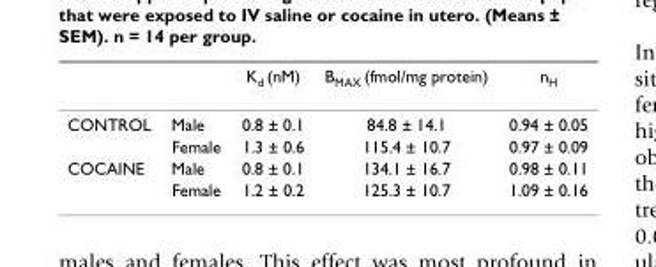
<table><thead><tr><td></td><td></td><td>Kd (nM)</td><td>BMAX (fmol/mg protein)</td><td>nH</td></tr></thead><tbody><tr><td rowspan="2">CONTROL</td><td>Male</td><td>0.8 ± 0.1</td><td>84.8 ± 14.1</td><td>0.94 ± 0.05</td></tr><tr><td>Female</td><td>1.3 ± 0.6</td><td>115.4 ± 10.7</td><td>0.97 ± 0.09</td></tr><tr><td rowspan="2">COCAINE</td><td>Male</td><td>0.8 ± 0.1</td><td>134.1 ± 16.7</td><td>0.98 ± 0.11</td></tr><tr><td>Female</td><td>1.2 ± 0.2</td><td>125.3 ± 10.7</td><td>1.09 ± 0.16</td></tr></tbody></table>